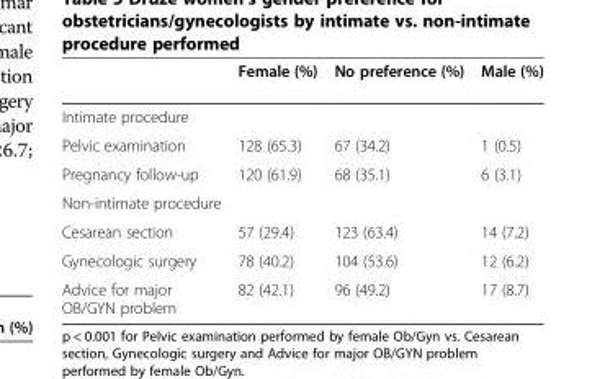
<table><thead><tr><td></td><td>Female (%)</td><td>No preference (%)</td><td>Male (%)</td></tr></thead><tbody><tr><td colspan="4">Intimate procedure</td></tr><tr><td>Pelvic examination</td><td>128 (65.3)</td><td>67 (34.2)</td><td>1 (0.5)</td></tr><tr><td>Pregnancy follow-up</td><td>120 (61.9)</td><td>68 (35.1)</td><td>6 (3.1)</td></tr><tr><td colspan="4">Non-intimate procedure</td></tr><tr><td>Cesarean section</td><td>57 (29.4)</td><td>123 (63.4)</td><td>14 (7.2)</td></tr><tr><td>Gynecologic surgery</td><td>78 (40.2)</td><td>104 (53.6)</td><td>12 (6.2)</td></tr><tr><td>Advice for major OB/GYN problem</td><td>82 (42.1)</td><td>96 (49.2)</td><td>17 (8.7)</td></tr></tbody></table>